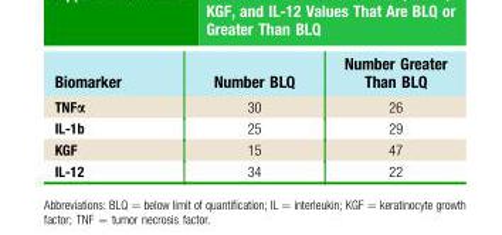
<table><thead><tr><td>Biomarker</td><td>Number BLQ</td><td>Number Greater Than BLQ</td></tr></thead><tbody><tr><td>TNFα</td><td>30</td><td>26</td></tr><tr><td>IL-1b</td><td>25</td><td>29</td></tr><tr><td>KGF</td><td>15</td><td>47</td></tr><tr><td>IL-12</td><td>34</td><td>22</td></tr></tbody></table>